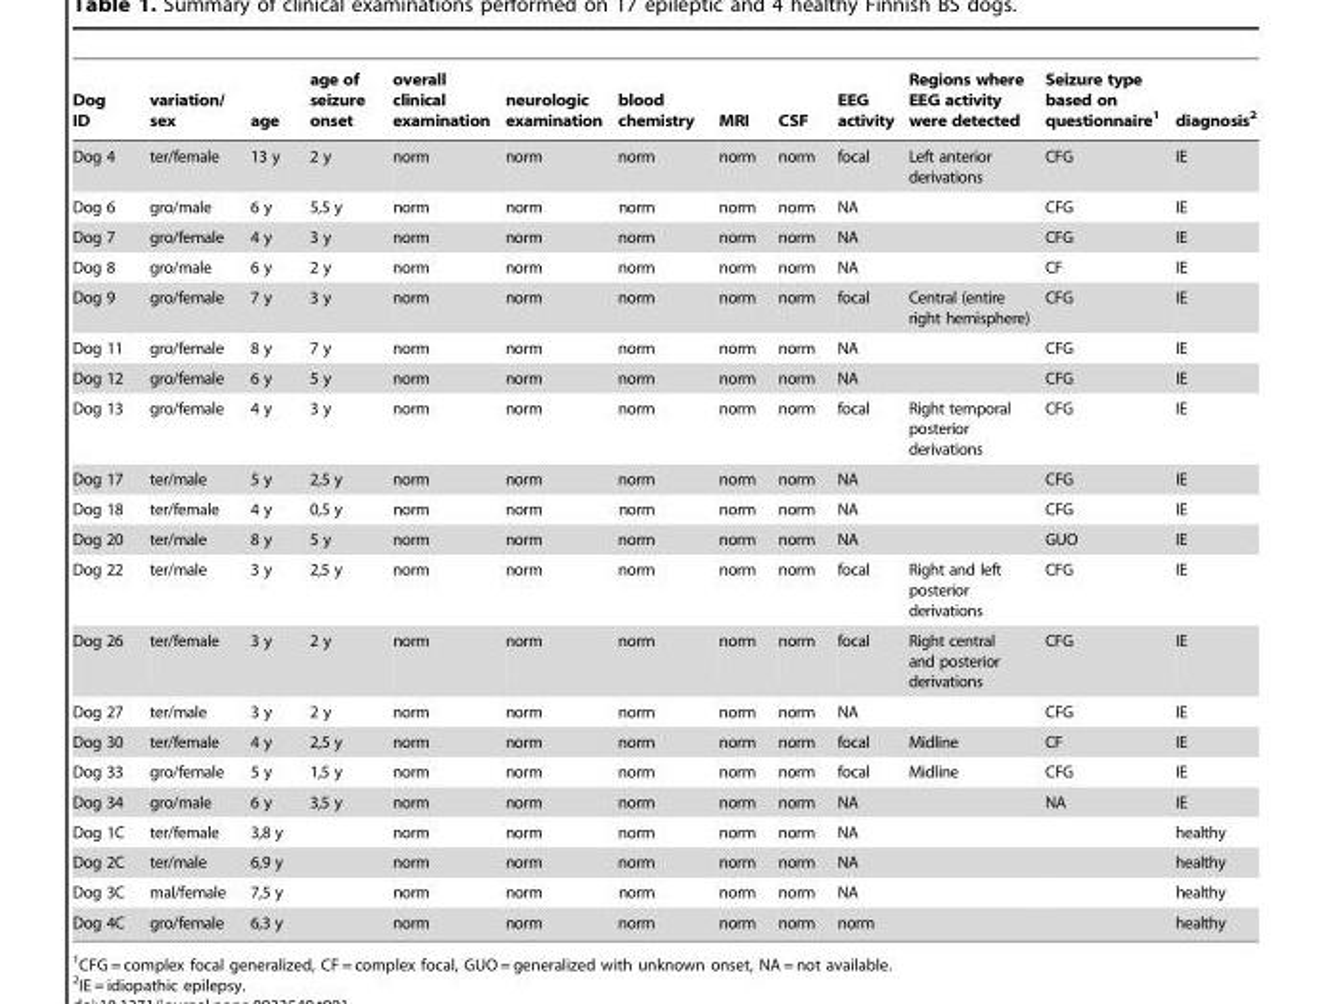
<table><thead><tr><td>Dog ID</td><td>variation/ sex</td><td>age</td><td>age of seizure onset</td><td>overall clinical examination</td><td>neurologic examination</td><td>blood chemistry</td><td>MRI</td><td>CSF</td><td>EEG activity</td><td>Regions where EEG activity were detected</td><td>Seizure type based on questionnaire<sup>1</sup></td><td>diagnosis<sup>2</sup></td></tr></thead><tbody><tr><td>Dog 4</td><td>ter/female</td><td>13 y</td><td>2 y</td><td>norm</td><td>norm</td><td>norm</td><td>norm</td><td>norm</td><td>focal</td><td>Left anterior derivations</td><td>CFG</td><td>IE</td></tr><tr><td>Dog 6</td><td>gro/male</td><td>6 y</td><td>5,5 y</td><td>norm</td><td>norm</td><td>norm</td><td>norm</td><td>norm</td><td>NA</td><td></td><td>CFG</td><td>IE</td></tr><tr><td>Dog 7</td><td>gro/female</td><td>4 y</td><td>3 y</td><td>norm</td><td>norm</td><td>norm</td><td>norm</td><td>norm</td><td>NA</td><td></td><td>CFG</td><td>IE</td></tr><tr><td>Dog 8</td><td>gro/male</td><td>6 y</td><td>2 y</td><td>norm</td><td>norm</td><td>norm</td><td>norm</td><td>norm</td><td>NA</td><td></td><td>CF</td><td>IE</td></tr><tr><td>Dog 9</td><td>gro/female</td><td>7 y</td><td>3 y</td><td>norm</td><td>norm</td><td>norm</td><td>norm</td><td>norm</td><td>focal</td><td>Central (entire right hemisphere)</td><td>CFG</td><td>IE</td></tr><tr><td>Dog 11</td><td>gro/female</td><td>8 y</td><td>7 y</td><td>norm</td><td>norm</td><td>norm</td><td>norm</td><td>norm</td><td>NA</td><td></td><td>CFG</td><td>IE</td></tr><tr><td>Dog 12</td><td>gro/female</td><td>6 y</td><td>5 y</td><td>norm</td><td>norm</td><td>norm</td><td>norm</td><td>norm</td><td>NA</td><td></td><td>CFG</td><td>IE</td></tr><tr><td>Dog 13</td><td>gro/female</td><td>4 y</td><td>3 y</td><td>norm</td><td>norm</td><td>norm</td><td>norm</td><td>norm</td><td>focal</td><td>Right temporal posterior derivations</td><td>CFG</td><td>IE</td></tr><tr><td>Dog 17</td><td>ter/male</td><td>5 y</td><td>2,5 y</td><td>norm</td><td>norm</td><td>norm</td><td>norm</td><td>norm</td><td>NA</td><td></td><td>CFG</td><td>IE</td></tr><tr><td>Dog 18</td><td>ter/female</td><td>4 y</td><td>0,5 y</td><td>norm</td><td>norm</td><td>norm</td><td>norm</td><td>norm</td><td>NA</td><td></td><td>CFG</td><td>IE</td></tr><tr><td>Dog 20</td><td>ter/male</td><td>8 y</td><td>5 y</td><td>norm</td><td>norm</td><td>norm</td><td>norm</td><td>norm</td><td>NA</td><td></td><td>GUO</td><td>IE</td></tr><tr><td>Dog 22</td><td>ter/male</td><td>3 y</td><td>2,5 y</td><td>norm</td><td>norm</td><td>norm</td><td>norm</td><td>norm</td><td>focal</td><td>Right and left posterior derivations</td><td>CFG</td><td>IE</td></tr><tr><td>Dog 26</td><td>ter/female</td><td>3 y</td><td>2 y</td><td>norm</td><td>norm</td><td>norm</td><td>norm</td><td>norm</td><td>focal</td><td>Right central and posterior derivations</td><td>CFG</td><td>IE</td></tr><tr><td>Dog 27</td><td>ter/male</td><td>3 y</td><td>2 y</td><td>norm</td><td>norm</td><td>norm</td><td>norm</td><td>norm</td><td>NA</td><td></td><td>CFG</td><td>IE</td></tr><tr><td>Dog 30</td><td>ter/female</td><td>4 y</td><td>2,5 y</td><td>norm</td><td>norm</td><td>norm</td><td>norm</td><td>norm</td><td>focal</td><td>Midline</td><td>CF</td><td>IE</td></tr><tr><td>Dog 33</td><td>gro/female</td><td>5 y</td><td>1,5 y</td><td>norm</td><td>norm</td><td>norm</td><td>norm</td><td>norm</td><td>focal</td><td>Midline</td><td>CFG</td><td>IE</td></tr><tr><td>Dog 34</td><td>gro/male</td><td>6 y</td><td>3,5 y</td><td>norm</td><td>norm</td><td>norm</td><td>norm</td><td>norm</td><td>NA</td><td></td><td>NA</td><td>IE</td></tr><tr><td>Dog 1C</td><td>ter/female</td><td>3,8 y</td><td></td><td>norm</td><td>norm</td><td>norm</td><td>norm</td><td>norm</td><td>NA</td><td></td><td></td><td>healthy</td></tr><tr><td>Dog 2C</td><td>ter/male</td><td>6,9 y</td><td></td><td>norm</td><td>norm</td><td>norm</td><td>norm</td><td>norm</td><td>NA</td><td></td><td></td><td>healthy</td></tr><tr><td>Dog 3C</td><td>mal/female</td><td>7,5 y</td><td></td><td>norm</td><td>norm</td><td>norm</td><td>norm</td><td>norm</td><td>NA</td><td></td><td></td><td>healthy</td></tr><tr><td>Dog 4C</td><td>gro/female</td><td>6,3 y</td><td></td><td>norm</td><td>norm</td><td>norm</td><td>norm</td><td>norm</td><td>norm</td><td></td><td></td><td>healthy</td></tr></tbody></table>